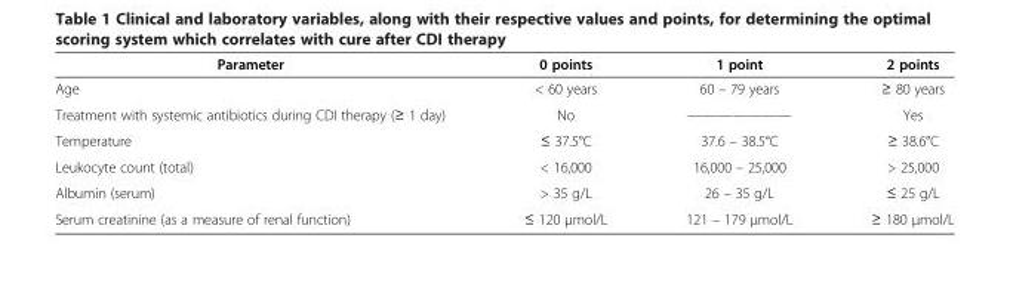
<table><thead><tr><td>Parameter</td><td>0 points</td><td>1 point</td><td>2 points</td></tr></thead><tbody><tr><td>Age</td><td>&lt; 60 years</td><td>60 – 79 years</td><td>≥ 80 years</td></tr><tr><td>Treatment with systemic antibiotics during CDI therapy (≥ 1 day)</td><td>No</td><td>———————</td><td>Yes</td></tr><tr><td>Temperature</td><td>≤ 37.5°C</td><td>37.6 – 38.5°C</td><td>≥ 38.6°C</td></tr><tr><td>Leukocyte count (total)</td><td>&lt; 16,000</td><td>16,000 – 25,000</td><td>&gt; 25,000</td></tr><tr><td>Albumin (serum)</td><td>&gt; 35 g/L</td><td>26 – 35 g/L</td><td>≤ 25 g/L</td></tr><tr><td>Serum creatinine (as a measure of renal function)</td><td>≤ 120 μmol/L</td><td>121 – 179 μmol/L</td><td>≥ 180 μmol/L</td></tr></tbody></table>